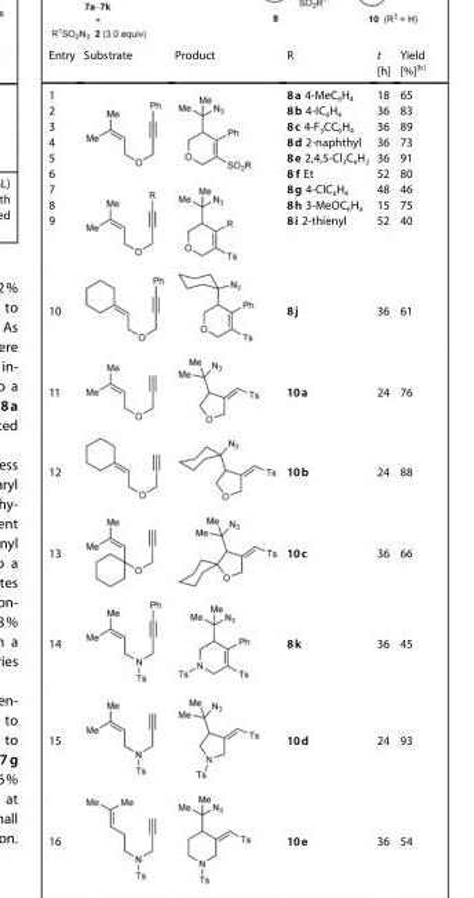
<table><thead><tr><td>Entry</td><td>Substrate</td><td>Product</td><td>R</td><td>t [h]</td><td>Yield [%]<sup>[b]</sup></td></tr></thead><tbody><tr><td>1</td><td rowspan="6"></td><td rowspan="6"></td><td>8a 4-MeC<sub>6</sub>H<sub>4</sub></td><td>18</td><td>65</td></tr><tr><td>2</td><td>8b 4-IC<sub>6</sub>H<sub>4</sub></td><td>36</td><td>83</td></tr><tr><td>3</td><td>8c 4-F<sub>3</sub>CC<sub>6</sub>H<sub>4</sub></td><td>36</td><td>89</td></tr><tr><td>4</td><td>8d 2-naphthyl</td><td>36</td><td>73</td></tr><tr><td>5</td><td>8e 2,4,5-Cl<sub>3</sub>C<sub>6</sub>H<sub>2</sub></td><td>36</td><td>91</td></tr><tr><td>6</td><td>8 f Et</td><td>52</td><td>80</td></tr><tr><td>7</td><td rowspan="3"></td><td rowspan="3"></td><td>8g 4-ClC<sub>6</sub>H<sub>4</sub></td><td>48</td><td>46</td></tr><tr><td>8</td><td>8h 3-MeOC<sub>6</sub>H<sub>4</sub></td><td>15</td><td>75</td></tr><tr><td>9</td><td>8i 2-thienyl</td><td>52</td><td>40</td></tr><tr><td>10</td><td></td><td></td><td>8j</td><td>36</td><td>61</td></tr><tr><td>11</td><td></td><td></td><td>10a</td><td>24</td><td>76</td></tr><tr><td>12</td><td></td><td></td><td>10b</td><td>24</td><td>88</td></tr><tr><td>13</td><td></td><td></td><td>10c</td><td>36</td><td>66</td></tr><tr><td>14</td><td></td><td></td><td>8k</td><td>36</td><td>45</td></tr><tr><td>15</td><td></td><td></td><td>10d</td><td>24</td><td>93</td></tr><tr><td>16</td><td></td><td></td><td>10e</td><td>36</td><td>54</td></tr></tbody></table>